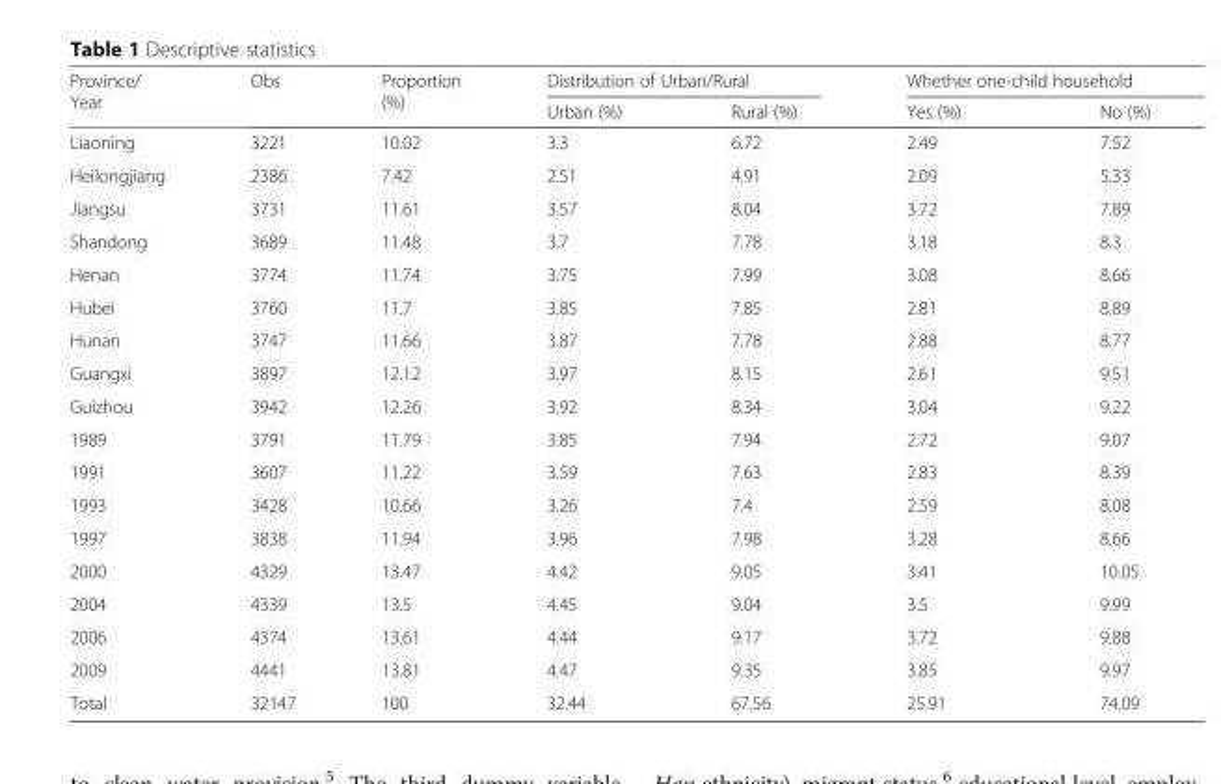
<table><thead><tr><td rowspan="2">Province/ Year</td><td rowspan="2">Obs</td><td rowspan="2">Proportion (%)</td><td colspan="2">Distribution of Urban/Rural</td><td colspan="2">Whether one-child household</td></tr><tr><td>Urban (%)</td><td>Rural (%)</td><td>Yes (%)</td><td>No (%)</td></tr></thead><tbody><tr><td>Liaoning</td><td>3221</td><td>10.02</td><td>3.3</td><td>6.72</td><td>2.49</td><td>7.52</td></tr><tr><td>Heilongjiang</td><td>2386</td><td>7.42</td><td>2.51</td><td>4.91</td><td>2.09</td><td>5.33</td></tr><tr><td>Jiangsu</td><td>3731</td><td>11.61</td><td>3.57</td><td>8.04</td><td>3.72</td><td>7.89</td></tr><tr><td>Shandong</td><td>3689</td><td>11.48</td><td>3.7</td><td>7.78</td><td>3.18</td><td>8.3</td></tr><tr><td>Henan</td><td>3774</td><td>11.74</td><td>3.75</td><td>7.99</td><td>3.08</td><td>8.66</td></tr><tr><td>Hubei</td><td>3760</td><td>11.7</td><td>3.85</td><td>7.85</td><td>2.81</td><td>8.89</td></tr><tr><td>Hunan</td><td>3747</td><td>11.66</td><td>3.87</td><td>7.78</td><td>2.88</td><td>8.77</td></tr><tr><td>Guangxi</td><td>3897</td><td>12.12</td><td>3.97</td><td>8.15</td><td>2.61</td><td>9.51</td></tr><tr><td>Guizhou</td><td>3942</td><td>12.26</td><td>3.92</td><td>8.34</td><td>3.04</td><td>9.22</td></tr><tr><td>1989</td><td>3791</td><td>11.79</td><td>3.85</td><td>7.94</td><td>2.72</td><td>9.07</td></tr><tr><td>1991</td><td>3607</td><td>11.22</td><td>3.59</td><td>7.63</td><td>2.83</td><td>8.39</td></tr><tr><td>1993</td><td>3428</td><td>10.66</td><td>3.26</td><td>7.4</td><td>2.59</td><td>8.08</td></tr><tr><td>1997</td><td>3838</td><td>11.94</td><td>3.96</td><td>7.98</td><td>3.28</td><td>8.66</td></tr><tr><td>2000</td><td>4329</td><td>13.47</td><td>4.42</td><td>9.05</td><td>3.41</td><td>10.05</td></tr><tr><td>2004</td><td>4339</td><td>13.5</td><td>4.45</td><td>9.04</td><td>3.5</td><td>9.99</td></tr><tr><td>2006</td><td>4374</td><td>13.61</td><td>4.44</td><td>9.17</td><td>3.72</td><td>9.88</td></tr><tr><td>2009</td><td>4441</td><td>13.81</td><td>4.47</td><td>9.35</td><td>3.85</td><td>9.97</td></tr><tr><td>Total</td><td>32147</td><td>100</td><td>32.44</td><td>67.56</td><td>25.91</td><td>74.09</td></tr></tbody></table>